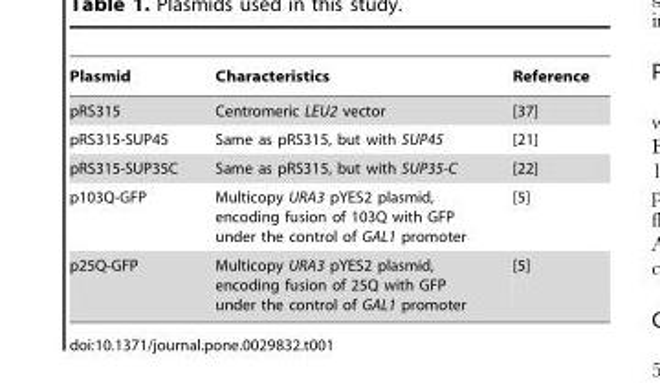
<table><thead><tr><td>Plasmid</td><td>Characteristics</td><td>Reference</td></tr></thead><tbody><tr><td>pRS315</td><td>Centromeric LEU2 vector</td><td>[37]</td></tr><tr><td>pRS315-SUP45</td><td>Same as pRS315, but with SUP45</td><td>[21]</td></tr><tr><td>pRS315-SUP35C</td><td>Same as pRS315, but with SUP35-C</td><td>[22]</td></tr><tr><td>p103Q-GFP</td><td>Multicopy URA3 pYES2 plasmid, encoding fusion of 103Q with GFP under the control of GAL1 promoter</td><td>[5]</td></tr><tr><td>p25Q-GFP</td><td>Multicopy URA3 pYES2 plasmid, encoding fusion of 25Q with GFP under the control of GAL1 promoter</td><td>[5]</td></tr></tbody></table>